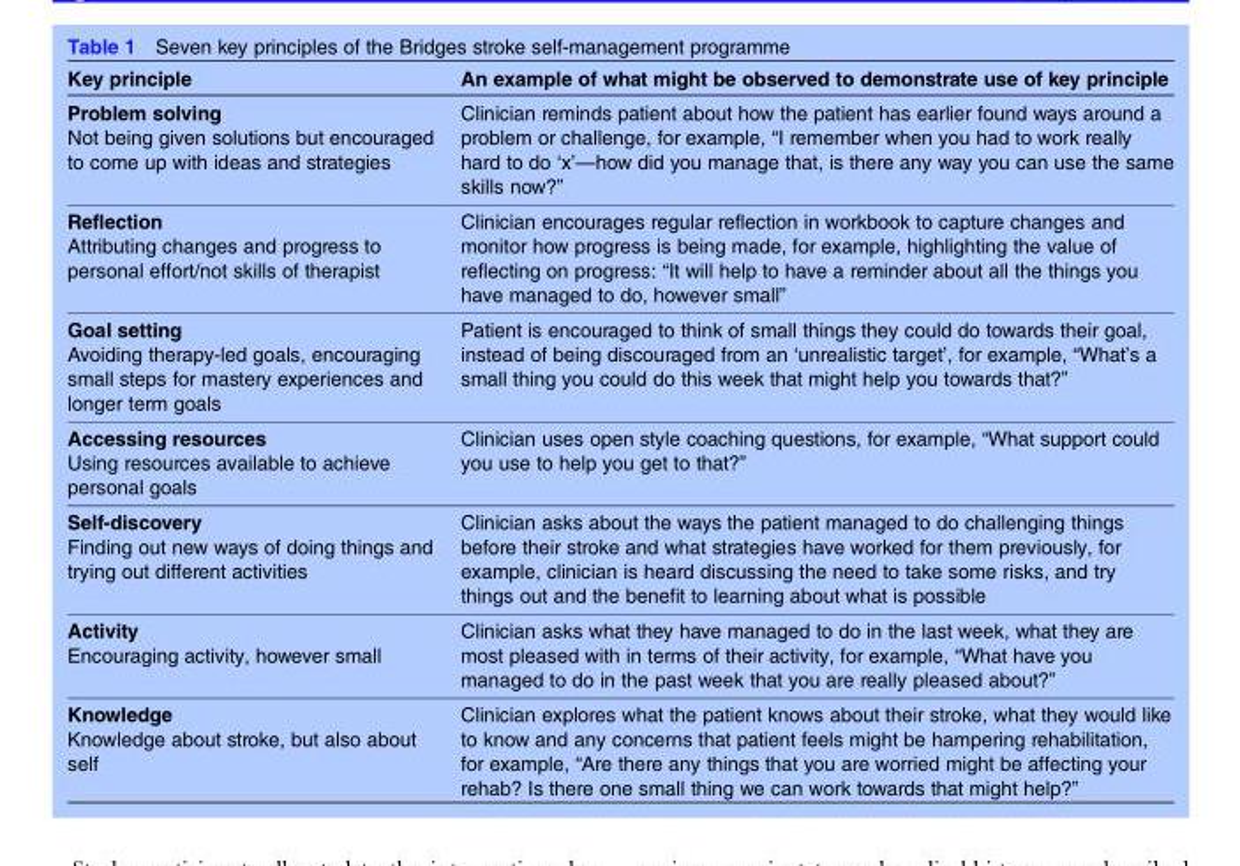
<table><thead><tr><td>Key principle</td><td>An example of what might be observed to demonstrate use of key principle</td></tr></thead><tbody><tr><td>Problem solving Not being given solutions but encouraged to come up with ideas and strategies</td><td>Clinician reminds patient about how the patient has earlier found ways around a problem or challenge, for example, “I remember when you had to work really hard to do ‘x’—how did you manage that, is there any way you can use the same skills now?”</td></tr><tr><td>Reflection Attributing changes and progress to personal effort/not skills of therapist</td><td>Clinician encourages regular reflection in workbook to capture changes and monitor how progress is being made, for example, highlighting the value of reflecting on progress: “It will help to have a reminder about all the things you have managed to do, however small”</td></tr><tr><td>Goal setting Avoiding therapy-led goals, encouraging small steps for mastery experiences and longer term goals</td><td>Patient is encouraged to think of small things they could do towards their goal, instead of being discouraged from an ‘unrealistic target’, for example, “What’s a small thing you could do this week that might help you towards that?”</td></tr><tr><td>Accessing resources Using resources available to achieve personal goals</td><td>Clinician uses open style coaching questions, for example, “What support could you use to help you get to that?”</td></tr><tr><td>Self-discovery Finding out new ways of doing things and trying out different activities</td><td>Clinician asks about the ways the patient managed to do challenging things before their stroke and what strategies have worked for them previously, for example, clinician is heard discussing the need to take some risks, and try things out and the benefit to learning about what is possible</td></tr><tr><td>Activity Encouraging activity, however small</td><td>Clinician asks what they have managed to do in the last week, what they are most pleased with in terms of their activity, for example, “What have you managed to do in the past week that you are really pleased about?”</td></tr><tr><td>Knowledge Knowledge about stroke, but also about self</td><td>Clinician explores what the patient knows about their stroke, what they would like to know and any concerns that patient feels might be hampering rehabilitation, for example, “Are there any things that you are worried might be affecting your rehab? Is there one small thing we can work towards that might help?”</td></tr></tbody></table>